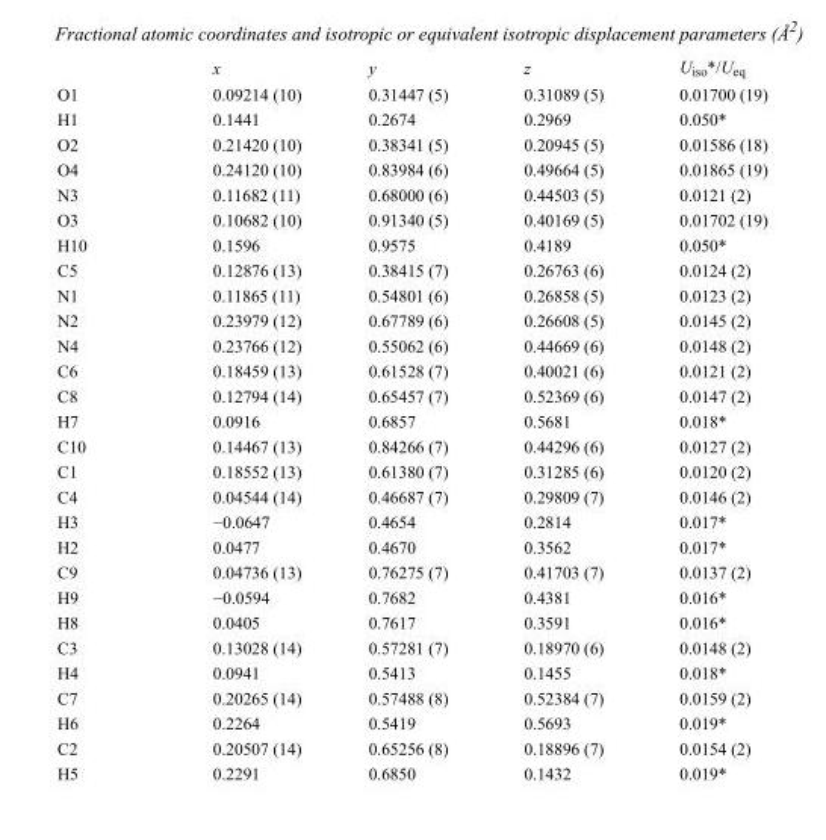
<table><thead><tr><td></td><td>x</td><td>y</td><td>z</td><td>U<sub>iso</sub>*/U<sub>eq</sub></td></tr></thead><tbody><tr><td>O1</td><td>0.09214 (10)</td><td>0.31447 (5)</td><td>0.31089 (5)</td><td>0.01700 (19)</td></tr><tr><td>H1</td><td>0.1441</td><td>0.2674</td><td>0.2969</td><td>0.050*</td></tr><tr><td>O2</td><td>0.21420 (10)</td><td>0.38341 (5)</td><td>0.20945 (5)</td><td>0.01586 (18)</td></tr><tr><td>O4</td><td>0.24120 (10)</td><td>0.83984 (6)</td><td>0.49664 (5)</td><td>0.01865 (19)</td></tr><tr><td>N3</td><td>0.11682 (11)</td><td>0.68000 (6)</td><td>0.44503 (5)</td><td>0.0121 (2)</td></tr><tr><td>O3</td><td>0.10682 (10)</td><td>0.91340 (5)</td><td>0.40169 (5)</td><td>0.01702 (19)</td></tr><tr><td>H10</td><td>0.1596</td><td>0.9575</td><td>0.4189</td><td>0.050*</td></tr><tr><td>C5</td><td>0.12876 (13)</td><td>0.38415 (7)</td><td>0.26763 (6)</td><td>0.0124 (2)</td></tr><tr><td>N1</td><td>0.11865 (11)</td><td>0.54801 (6)</td><td>0.26858 (5)</td><td>0.0123 (2)</td></tr><tr><td>N2</td><td>0.23979 (12)</td><td>0.67789 (6)</td><td>0.26608 (5)</td><td>0.0145 (2)</td></tr><tr><td>N4</td><td>0.23766 (12)</td><td>0.55062 (6)</td><td>0.44669 (6)</td><td>0.0148 (2)</td></tr><tr><td>C6</td><td>0.18459 (13)</td><td>0.61528 (7)</td><td>0.40021 (6)</td><td>0.0121 (2)</td></tr><tr><td>C8</td><td>0.12794 (14)</td><td>0.65457 (7)</td><td>0.52369 (6)</td><td>0.0147 (2)</td></tr><tr><td>H7</td><td>0.0916</td><td>0.6857</td><td>0.5681</td><td>0.018*</td></tr><tr><td>C10</td><td>0.14467 (13)</td><td>0.84266 (7)</td><td>0.44296 (6)</td><td>0.0127 (2)</td></tr><tr><td>C1</td><td>0.18552 (13)</td><td>0.61380 (7)</td><td>0.31285 (6)</td><td>0.0120 (2)</td></tr><tr><td>C4</td><td>0.04544 (14)</td><td>0.46687 (7)</td><td>0.29809 (7)</td><td>0.0146 (2)</td></tr><tr><td>H3</td><td>−0.0647</td><td>0.4654</td><td>0.2814</td><td>0.017*</td></tr><tr><td>H2</td><td>0.0477</td><td>0.4670</td><td>0.3562</td><td>0.017*</td></tr><tr><td>C9</td><td>0.04736 (13)</td><td>0.76275 (7)</td><td>0.41703 (7)</td><td>0.0137 (2)</td></tr><tr><td>H9</td><td>−0.0594</td><td>0.7682</td><td>0.4381</td><td>0.016*</td></tr><tr><td>H8</td><td>0.0405</td><td>0.7617</td><td>0.3591</td><td>0.016*</td></tr><tr><td>C3</td><td>0.13028 (14)</td><td>0.57281 (7)</td><td>0.18970 (6)</td><td>0.0148 (2)</td></tr><tr><td>H4</td><td>0.0941</td><td>0.5413</td><td>0.1455</td><td>0.018*</td></tr><tr><td>C7</td><td>0.20265 (14)</td><td>0.57488 (8)</td><td>0.52384 (7)</td><td>0.0159 (2)</td></tr><tr><td>H6</td><td>0.2264</td><td>0.5419</td><td>0.5693</td><td>0.019*</td></tr><tr><td>C2</td><td>0.20507 (14)</td><td>0.65256 (8)</td><td>0.18896 (7)</td><td>0.0154 (2)</td></tr><tr><td>H5</td><td>0.2291</td><td>0.6850</td><td>0.1432</td><td>0.019*</td></tr></tbody></table>